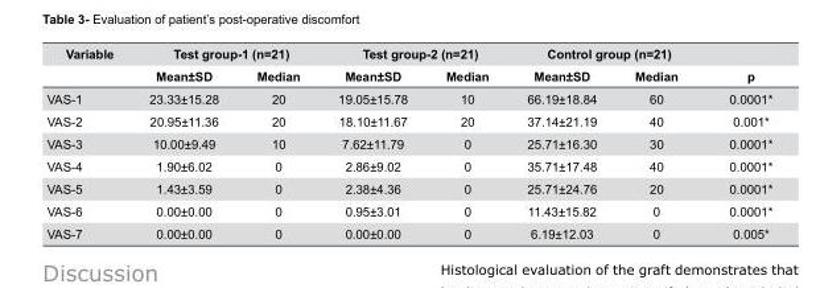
<table><thead><tr><td rowspan="2">Variable</td><td colspan="2">Test group-1 (n=21)</td><td colspan="2">Test group-2 (n=21)</td><td colspan="2">Control group (n=21)</td><td rowspan="2">p</td></tr><tr><td>Mean±SD</td><td>Median</td><td>Mean±SD</td><td>Median</td><td>Mean±SD</td><td>Median</td></tr></thead><tbody><tr><td>VAS-1</td><td>23.33±15.28</td><td>20</td><td>19.05±15.78</td><td>10</td><td>66.19±18.84</td><td>60</td><td>0.0001*</td></tr><tr><td>VAS-2</td><td>20.95±11.36</td><td>20</td><td>18.10±11.67</td><td>20</td><td>37.14±21.19</td><td>40</td><td>0.001*</td></tr><tr><td>VAS-3</td><td>10.00±9.49</td><td>10</td><td>7.62±11.79</td><td>0</td><td>25.71±16.30</td><td>30</td><td>0.0001*</td></tr><tr><td>VAS-4</td><td>1.90±6.02</td><td>0</td><td>2.86±9.02</td><td>0</td><td>35.71±17.48</td><td>40</td><td>0.0001*</td></tr><tr><td>VAS-5</td><td>1.43±3.59</td><td>0</td><td>2.38±4.36</td><td>0</td><td>25.71±24.76</td><td>20</td><td>0.0001*</td></tr><tr><td>VAS-6</td><td>0.00±0.00</td><td>0</td><td>0.95±3.01</td><td>0</td><td>11.43±15.82</td><td>0</td><td>0.0001*</td></tr><tr><td>VAS-7</td><td>0.00±0.00</td><td>0</td><td>0.00±0.00</td><td>0</td><td>6.19±12.03</td><td>0</td><td>0.005*</td></tr></tbody></table>